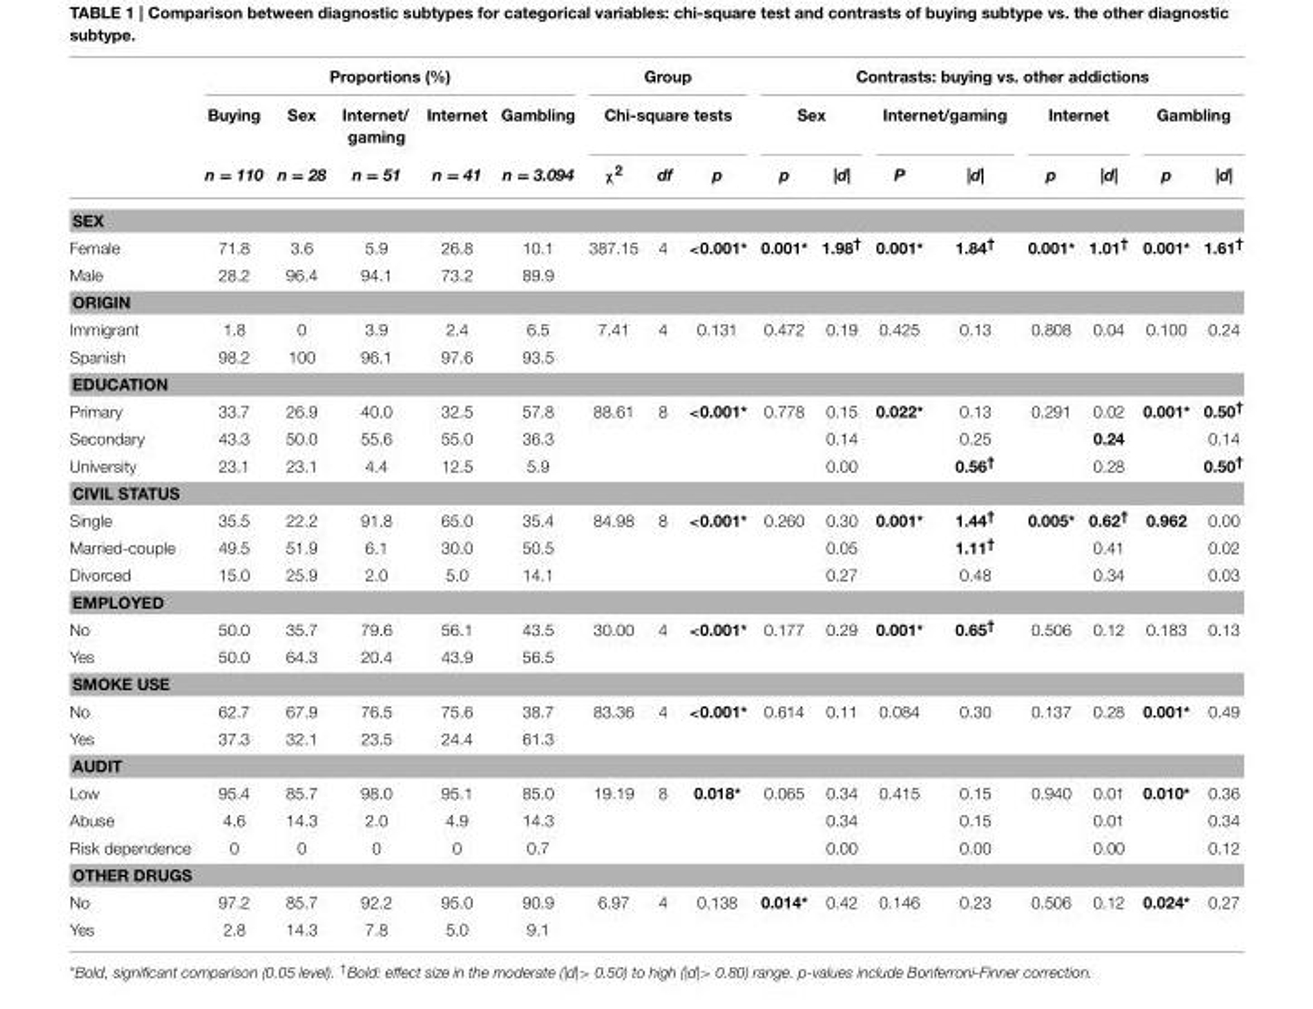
<table><thead><tr><td rowspan="3"></td><td colspan="5">Proportions (%)</td><td rowspan="2" colspan="3">Group Chi-square tests</td><td colspan="8">Contrasts: buying vs. other addictions</td></tr><tr><td rowspan="2">Buying n = 110</td><td rowspan="2">Sex n = 28</td><td rowspan="2">Internet/ gaming n = 51</td><td rowspan="2">Internet n = 41</td><td rowspan="2">Gambling n = 3.094</td><td colspan="2">Sex</td><td colspan="2">Internet/gaming</td><td colspan="2">Internet</td><td colspan="2">Gambling</td></tr><tr><td>χ<sup>2</sup></td><td>df</td><td>p</td><td>p</td><td>|d|</td><td>P</td><td>|d|</td><td>p</td><td>|d|</td><td>p</td><td>|d|</td></tr></thead><tbody><tr><td colspan="17">SEX</td></tr><tr><td>Female</td><td>71.8</td><td>3.6</td><td>5.9</td><td>26.8</td><td>10.1</td><td>387.15</td><td>4</td><td>&lt;0.001*</td><td>0.001*</td><td>1.98<sup>†</sup></td><td>0.001*</td><td>1.84<sup>†</sup></td><td>0.001*</td><td>1.01<sup>†</sup></td><td>0.001*</td><td>1.61<sup>†</sup></td></tr><tr><td>Male</td><td>28.2</td><td>96.4</td><td>94.1</td><td>73.2</td><td>89.9</td><td></td><td></td><td></td><td></td><td></td><td></td><td></td><td></td><td></td><td></td><td></td></tr><tr><td colspan="17">ORIGIN</td></tr><tr><td>Immigrant</td><td>1.8</td><td>0</td><td>3.9</td><td>2.4</td><td>6.5</td><td>7.41</td><td>4</td><td>0.131</td><td>0.472</td><td>0.19</td><td>0.425</td><td>0.13</td><td>0.808</td><td>0.04</td><td>0.100</td><td>0.24</td></tr><tr><td>Spanish</td><td>98.2</td><td>100</td><td>96.1</td><td>97.6</td><td>93.5</td><td></td><td></td><td></td><td></td><td></td><td></td><td></td><td></td><td></td><td></td><td></td></tr><tr><td colspan="17">EDUCATION</td></tr><tr><td>Primary</td><td>33.7</td><td>26.9</td><td>40.0</td><td>32.5</td><td>57.8</td><td>88.61</td><td>8</td><td>&lt;0.001*</td><td>0.778</td><td>0.15</td><td>0.022*</td><td>0.13</td><td>0.291</td><td>0.02</td><td>0.001*</td><td>0.50<sup>†</sup></td></tr><tr><td>Secondary</td><td>43.3</td><td>50.0</td><td>55.6</td><td>55.0</td><td>36.3</td><td></td><td></td><td></td><td></td><td>0.14</td><td></td><td>0.25</td><td></td><td>0.24</td><td></td><td>0.14</td></tr><tr><td>University</td><td>23.1</td><td>23.1</td><td>4.4</td><td>12.5</td><td>5.9</td><td></td><td></td><td></td><td></td><td>0.00</td><td></td><td>0.56<sup>†</sup></td><td></td><td>0.28</td><td></td><td>0.50<sup>†</sup></td></tr><tr><td colspan="17">CIVIL STATUS</td></tr><tr><td>Single</td><td>35.5</td><td>22.2</td><td>91.8</td><td>65.0</td><td>35.4</td><td>84.98</td><td>8</td><td>&lt;0.001*</td><td>0.260</td><td>0.30</td><td>0.001*</td><td>1.44<sup>†</sup></td><td>0.005*</td><td>0.62<sup>†</sup></td><td>0.962</td><td>0.00</td></tr><tr><td>Married-couple</td><td>49.5</td><td>51.9</td><td>6.1</td><td>30.0</td><td>50.5</td><td></td><td></td><td></td><td></td><td>0.05</td><td></td><td>1.11<sup>†</sup></td><td></td><td>0.41</td><td></td><td>0.02</td></tr><tr><td>Divorced</td><td>15.0</td><td>25.9</td><td>2.0</td><td>5.0</td><td>14.1</td><td></td><td></td><td></td><td></td><td>0.27</td><td></td><td>0.48</td><td></td><td>0.34</td><td></td><td>0.03</td></tr><tr><td colspan="17">EMPLOYED</td></tr><tr><td>No</td><td>50.0</td><td>35.7</td><td>79.6</td><td>56.1</td><td>43.5</td><td>30.00</td><td>4</td><td>&lt;0.001*</td><td>0.177</td><td>0.29</td><td>0.001*</td><td>0.65<sup>†</sup></td><td>0.506</td><td>0.12</td><td>0.183</td><td>0.13</td></tr><tr><td>Yes</td><td>50.0</td><td>64.3</td><td>20.4</td><td>43.9</td><td>56.5</td><td></td><td></td><td></td><td></td><td></td><td></td><td></td><td></td><td></td><td></td><td></td></tr><tr><td colspan="17">SMOKE USE</td></tr><tr><td>No</td><td>62.7</td><td>67.9</td><td>76.5</td><td>75.6</td><td>38.7</td><td>83.36</td><td>4</td><td>&lt;0.001*</td><td>0.614</td><td>0.11</td><td>0.084</td><td>0.30</td><td>0.137</td><td>0.28</td><td>0.001*</td><td>0.49</td></tr><tr><td>Yes</td><td>37.3</td><td>32.1</td><td>23.5</td><td>24.4</td><td>61.3</td><td></td><td></td><td></td><td></td><td></td><td></td><td></td><td></td><td></td><td></td><td></td></tr><tr><td colspan="17">AUDIT</td></tr><tr><td>Low</td><td>95.4</td><td>85.7</td><td>98.0</td><td>95.1</td><td>85.0</td><td>19.19</td><td>8</td><td>0.018*</td><td>0.065</td><td>0.34</td><td>0.415</td><td>0.15</td><td>0.940</td><td>0.01</td><td>0.010*</td><td>0.36</td></tr><tr><td>Abuse</td><td>4.6</td><td>14.3</td><td>2.0</td><td>4.9</td><td>14.3</td><td></td><td></td><td></td><td></td><td>0.34</td><td></td><td>0.15</td><td></td><td>0.01</td><td></td><td>0.34</td></tr><tr><td>Risk dependence</td><td>0</td><td>0</td><td>0</td><td>0</td><td>0.7</td><td></td><td></td><td></td><td></td><td>0.00</td><td></td><td>0.00</td><td></td><td>0.00</td><td></td><td>0.12</td></tr><tr><td colspan="17">OTHER DRUGS</td></tr><tr><td>No</td><td>97.2</td><td>85.7</td><td>92.2</td><td>95.0</td><td>90.9</td><td>6.97</td><td>4</td><td>0.138</td><td>0.014*</td><td>0.42</td><td>0.146</td><td>0.23</td><td>0.506</td><td>0.12</td><td>0.024*</td><td>0.27</td></tr><tr><td>Yes</td><td>2.8</td><td>14.3</td><td>7.8</td><td>5.0</td><td>9.1</td><td></td><td></td><td></td><td></td><td></td><td></td><td></td><td></td><td></td><td></td><td></td></tr></tbody></table>